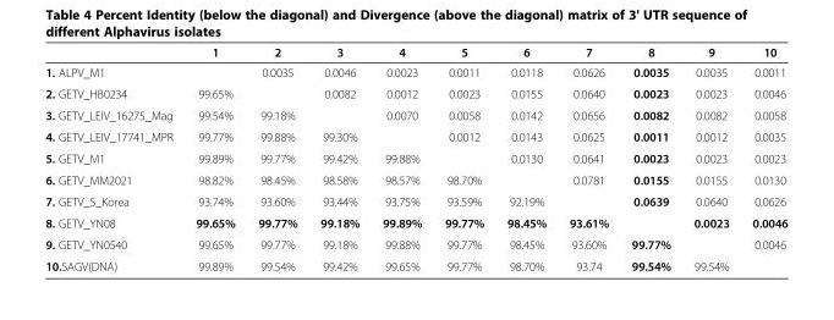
<table><thead><tr><td></td><td>1</td><td>2</td><td>3</td><td>4</td><td>5</td><td>6</td><td>7</td><td>8</td><td>9</td><td>10</td></tr></thead><tbody><tr><td>1. ALPV_M1</td><td></td><td>0.0035</td><td>0.0046</td><td>0.0023</td><td>0.0011</td><td>0.0118</td><td>0.0626</td><td>0.0035</td><td>0.0035</td><td>0.0011</td></tr><tr><td>2. GETV_HB0234</td><td>99.65%</td><td></td><td>0.0082</td><td>0.0012</td><td>0.0023</td><td>0.0155</td><td>0.0640</td><td>0.0023</td><td>0.0023</td><td>0.0046</td></tr><tr><td>3. GETV_LEIV_16275_Mag</td><td>99.54%</td><td>99.18%</td><td></td><td>0.0070</td><td>0.0058</td><td>0.0142</td><td>0.0656</td><td>0.0082</td><td>0.0082</td><td>0.0058</td></tr><tr><td>4. GETV_LEIV_17741_MPR</td><td>99.77%</td><td>99.88%</td><td>99.30%</td><td></td><td>0.0012</td><td>0.0143</td><td>0.0625</td><td>0.0011</td><td>0.0012</td><td>0.0035</td></tr><tr><td>5. GETV_M1</td><td>99.89%</td><td>99.77%</td><td>99.42%</td><td>99.88%</td><td></td><td>0.0130</td><td>0.0641</td><td>0.0023</td><td>0.0023</td><td>0.0023</td></tr><tr><td>6. GETV_MM2021</td><td>98.82%</td><td>98.45%</td><td>98.58%</td><td>98.57%</td><td>98.70%</td><td></td><td>0.0781</td><td>0.0155</td><td>0.0155</td><td>0.0130</td></tr><tr><td>7. GETV_S_Korea</td><td>93.74%</td><td>93.60%</td><td>93.44%</td><td>93.75%</td><td>93.59%</td><td>92.19%</td><td></td><td>0.0639</td><td>0.0640</td><td>0.0626</td></tr><tr><td>8. GETV_YN08</td><td>99.65%</td><td>99.77%</td><td>99.18%</td><td>99.89%</td><td>99.77%</td><td>98.45%</td><td>93.61%</td><td></td><td>0.0023</td><td>0.0046</td></tr><tr><td>9. GETV_YN0540</td><td>99.65%</td><td>99.77%</td><td>99.18%</td><td>99.88%</td><td>99.77%</td><td>98.45%</td><td>93.60%</td><td>99.77%</td><td></td><td>0.0046</td></tr><tr><td>10.SAGV(DNA)</td><td>99.89%</td><td>99.54%</td><td>99.42%</td><td>99.65%</td><td>99.77%</td><td>98.70%</td><td>93.74</td><td>99.54%</td><td>99.54%</td><td></td></tr></tbody></table>